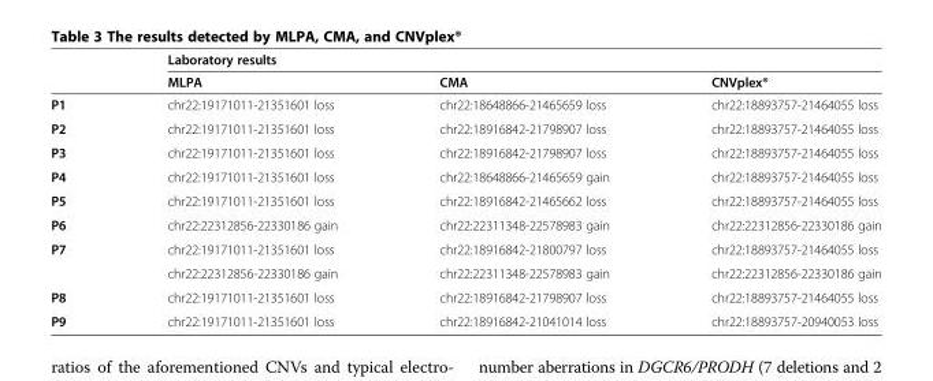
<table><thead><tr><td rowspan="2"></td><td colspan="3">Laboratory results</td></tr><tr><td>MLPA</td><td>CMA</td><td>CNVplex®</td></tr></thead><tbody><tr><td>P1</td><td>chr22:19171011-21351601 loss</td><td>chr22:18648866-21465659 loss</td><td>chr22:18893757-21464055 loss</td></tr><tr><td>P2</td><td>chr22:19171011-21351601 loss</td><td>chr22:18916842-21798907 loss</td><td>chr22:18893757-21464055 loss</td></tr><tr><td>P3</td><td>chr22:19171011-21351601 loss</td><td>chr22:18916842-21798907 loss</td><td>chr22:18893757-21464055 loss</td></tr><tr><td>P4</td><td>chr22:19171011-21351601 loss</td><td>chr22:18648866-21465659 gain</td><td>chr22:18893757-21464055 loss</td></tr><tr><td>P5</td><td>chr22:19171011-21351601 loss</td><td>chr22:18916842-21465662 loss</td><td>chr22:18893757-21464055 loss</td></tr><tr><td>P6</td><td>chr22:22312856-22330186 gain</td><td>chr22:22311348-22578983 gain</td><td>chr22:22312856-22330186 gain</td></tr><tr><td rowspan="2">P7</td><td>chr22:19171011-21351601 loss</td><td>chr22:18916842-21800797 loss</td><td>chr22:18893757-21464055 loss</td></tr><tr><td>chr22:22312856-22330186 gain</td><td>chr22:22311348-22578983 gain</td><td>chr22:22312856-22330186 gain</td></tr><tr><td>P8</td><td>chr22:19171011-21351601 loss</td><td>chr22:18916842-21798907 loss</td><td>chr22:18893757-21464055 loss</td></tr><tr><td>P9</td><td>chr22:19171011-21351601 loss</td><td>chr22:18916842-21041014 loss</td><td>chr22:18893757-20940053 loss</td></tr></tbody></table>